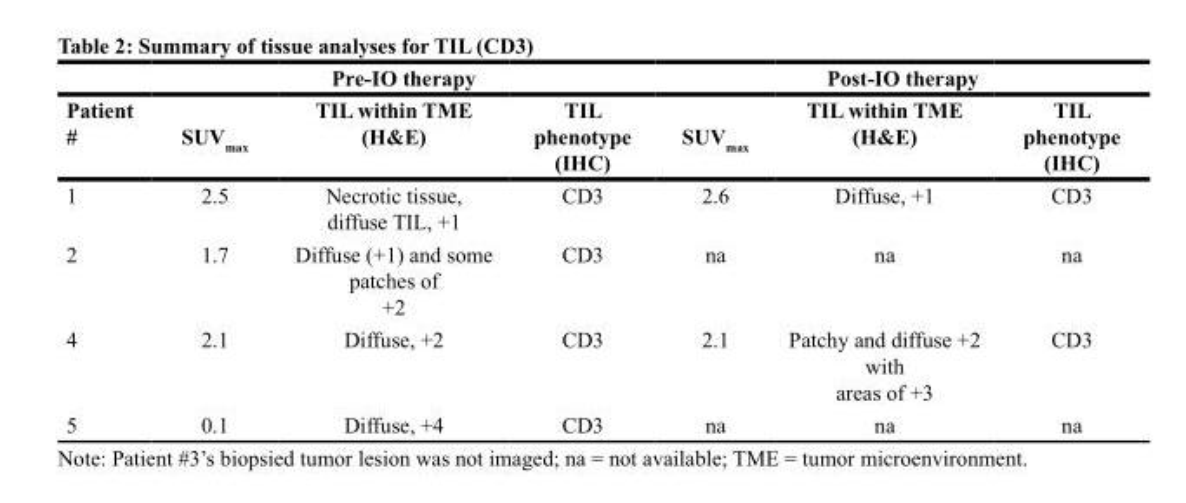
<table><thead><tr><td rowspan="2">Patient #</td><td colspan="3">Pre-IO therapy</td><td colspan="3">Post-IO therapy</td></tr><tr><td>SUV<sub>max</sub></td><td>TIL within TME (H&amp;E)</td><td>TIL phenotype (IHC)</td><td>SUV<sub>max</sub></td><td>TIL within TME (H&amp;E)</td><td>TIL phenotype (IHC)</td></tr></thead><tbody><tr><td>1</td><td>2.5</td><td>Necrotic tissue, diffuse TIL, +1</td><td>CD3</td><td>2.6</td><td>Diffuse, +1</td><td>CD3</td></tr><tr><td>2</td><td>1.7</td><td>Diffuse (+1) and some patches of +2</td><td>CD3</td><td>na</td><td>na</td><td>na</td></tr><tr><td>4</td><td>2.1</td><td>Diffuse, +2</td><td>CD3</td><td>2.1</td><td>Patchy and diffuse +2 with areas of +3</td><td>CD3</td></tr><tr><td>5</td><td>0.1</td><td>Diffuse, +4</td><td>CD3</td><td>na</td><td>na</td><td>na</td></tr></tbody></table>